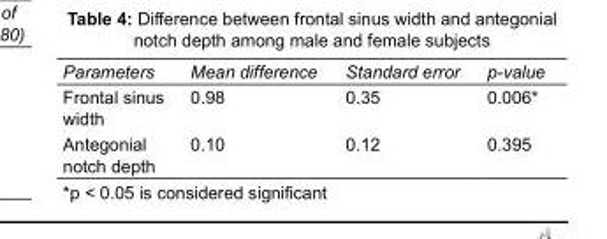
<table><tbody><tr><td>Parameters</td><td>Mean difference</td><td>Standard error</td><td>p-value</td></tr><tr><td>Frontal sinus width</td><td>0.98</td><td>0.35</td><td>0.006*</td></tr><tr><td>Antegonial notch depth</td><td>0.10</td><td>0.12</td><td>0.395</td></tr></tbody></table>